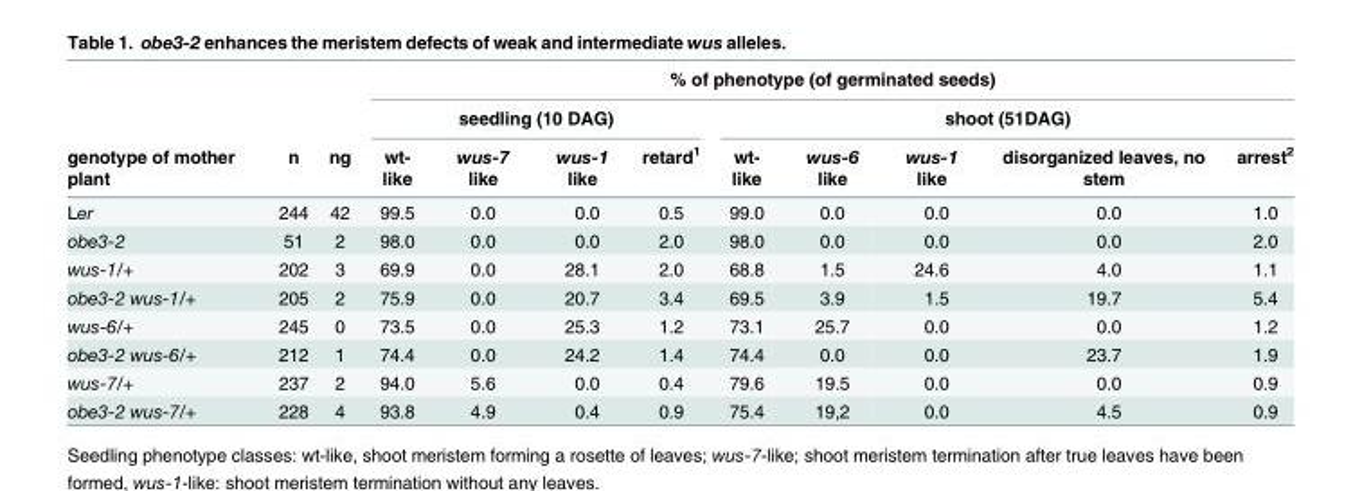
<table><thead><tr><td rowspan="3">genotype of mother plant</td><td rowspan="3">n</td><td rowspan="3">ng</td><td colspan="9">% of phenotype (of germinated seeds)</td></tr><tr><td colspan="4">seedling (10 DAG)</td><td colspan="5">shoot (51DAG)</td></tr><tr><td>wt- like</td><td>wus-7 like</td><td>wus-1 like</td><td>retard<sup>1</sup></td><td>wt- like</td><td>wus-6 like</td><td>wus-1 like</td><td>disorganized leaves, no stem</td><td>arrest<sup>2</sup></td></tr></thead><tbody><tr><td>Ler</td><td>244</td><td>42</td><td>99.5</td><td>0.0</td><td>0.0</td><td>0.5</td><td>99.0</td><td>0.0</td><td>0.0</td><td>0.0</td><td>1.0</td></tr><tr><td>obe3-2</td><td>51</td><td>2</td><td>98.0</td><td>0.0</td><td>0.0</td><td>2.0</td><td>98.0</td><td>0.0</td><td>0.0</td><td>0.0</td><td>2.0</td></tr><tr><td>wus-1/+</td><td>202</td><td>3</td><td>69.9</td><td>0.0</td><td>28.1</td><td>2.0</td><td>68.8</td><td>1.5</td><td>24.6</td><td>4.0</td><td>1.1</td></tr><tr><td>obe3-2 wus-1/+</td><td>205</td><td>2</td><td>75.9</td><td>0.0</td><td>20.7</td><td>3.4</td><td>69.5</td><td>3.9</td><td>1.5</td><td>19.7</td><td>5.4</td></tr><tr><td>wus-6/+</td><td>245</td><td>0</td><td>73.5</td><td>0.0</td><td>25.3</td><td>1.2</td><td>73.1</td><td>25.7</td><td>0.0</td><td>0.0</td><td>1.2</td></tr><tr><td>obe3-2 wus-6/+</td><td>212</td><td>1</td><td>74.4</td><td>0.0</td><td>24.2</td><td>1.4</td><td>74.4</td><td>0.0</td><td>0.0</td><td>23.7</td><td>1.9</td></tr><tr><td>wus-7/+</td><td>237</td><td>2</td><td>94.0</td><td>5.6</td><td>0.0</td><td>0.4</td><td>79.6</td><td>19.5</td><td>0.0</td><td>0.0</td><td>0.9</td></tr><tr><td>obe3-2 wus-7/+</td><td>228</td><td>4</td><td>93.8</td><td>4.9</td><td>0.4</td><td>0.9</td><td>75.4</td><td>19,2</td><td>0.0</td><td>4.5</td><td>0.9</td></tr></tbody></table>